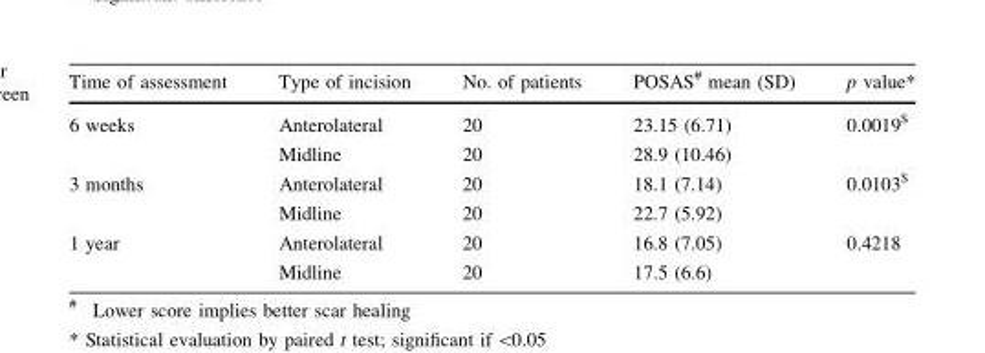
<table><thead><tr><td>Time of assessment</td><td>Type of incision</td><td>No. of patients</td><td>POSAS<sup>#</sup> mean (SD)</td><td>p value*</td></tr></thead><tbody><tr><td rowspan="2">6 weeks</td><td>Anterolateral</td><td>20</td><td>23.15 (6.71)</td><td rowspan="2">0.0019<sup>$</sup></td></tr><tr><td>Midline</td><td>20</td><td>28.9 (10.46)</td></tr><tr><td rowspan="2">3 months</td><td>Anterolateral</td><td>20</td><td>18.1 (7.14)</td><td rowspan="2">0.0103<sup>$</sup></td></tr><tr><td>Midline</td><td>20</td><td>22.7 (5.92)</td></tr><tr><td rowspan="2">1 year</td><td>Anterolateral</td><td>20</td><td>16.8 (7.05)</td><td rowspan="2">0.4218</td></tr><tr><td>Midline</td><td>20</td><td>17.5 (6.6)</td></tr></tbody></table>